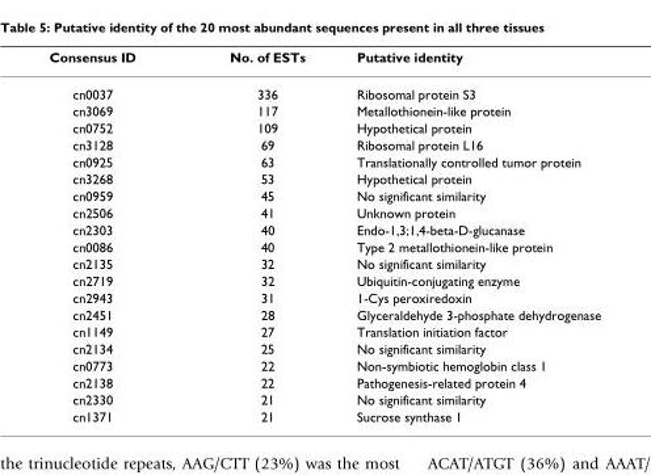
<table><thead><tr><td>Consensus ID</td><td>No. of ESTs</td><td>Putative identity</td></tr></thead><tbody><tr><td>cn0037</td><td>336</td><td>Ribosomal protein S3</td></tr><tr><td>cn3069</td><td>117</td><td>Metallothionein-like protein</td></tr><tr><td>cn0752</td><td>109</td><td>Hypothetical protein</td></tr><tr><td>cn3128</td><td>69</td><td>Ribosomal protein L16</td></tr><tr><td>cn0925</td><td>63</td><td>Translationally controlled tumor protein</td></tr><tr><td>cn3268</td><td>53</td><td>Hypothetical protein</td></tr><tr><td>cn0959</td><td>45</td><td>No significant similarity</td></tr><tr><td>cn2506</td><td>41</td><td>Unknown protein</td></tr><tr><td>cn2303</td><td>40</td><td>Endo-1,3;1,4-beta-D-glucanase</td></tr><tr><td>cn0086</td><td>40</td><td>Type 2 metallothionein-like protein</td></tr><tr><td>cn2135</td><td>32</td><td>No significant similarity</td></tr><tr><td>cn2719</td><td>32</td><td>Ubiquitin-conjugating enzyme</td></tr><tr><td>cn2943</td><td>31</td><td>1-Cys peroxiredoxin</td></tr><tr><td>cn2451</td><td>28</td><td>Glyceraldehyde 3-phosphate dehydrogenase</td></tr><tr><td>cn1149</td><td>27</td><td>Translation initiation factor</td></tr><tr><td>cn2134</td><td>25</td><td>No significant similarity</td></tr><tr><td>cn0773</td><td>22</td><td>Non-symbiotic hemoglobin class 1</td></tr><tr><td>cn2138</td><td>22</td><td>Pathogenesis-related protein 4</td></tr><tr><td>cn2330</td><td>21</td><td>No significant similarity</td></tr><tr><td>cn1371</td><td>21</td><td>Sucrose synthase 1</td></tr></tbody></table>